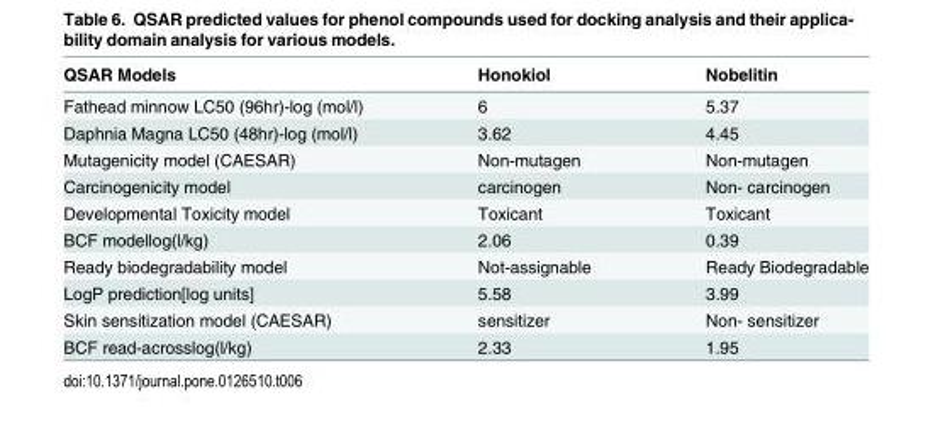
<table><thead><tr><td>QSAR Models</td><td>Honokiol</td><td>Nobelitin</td></tr></thead><tbody><tr><td>Fathead minnow LC50 (96hr)-log (mol/l)</td><td>6</td><td>5.37</td></tr><tr><td>Daphnia Magna LC50 (48hr)-log (mol/l)</td><td>3.62</td><td>4.45</td></tr><tr><td>Mutagenicity model (CAESAR)</td><td>Non-mutagen</td><td>Non-mutagen</td></tr><tr><td>Carcinogenicity model</td><td>carcinogen</td><td>Non- carcinogen</td></tr><tr><td>Developmental Toxicity model</td><td>Toxicant</td><td>Toxicant</td></tr><tr><td>BCF modellog(l/kg)</td><td>2.06</td><td>0.39</td></tr><tr><td>Ready biodegradability model</td><td>Not-assignable</td><td>Ready Biodegradable</td></tr><tr><td>LogP prediction[log units]</td><td>5.58</td><td>3.99</td></tr><tr><td>Skin sensitization model (CAESAR)</td><td>sensitizer</td><td>Non- sensitizer</td></tr><tr><td>BCF read-acrosslog(l/kg)</td><td>2.33</td><td>1.95</td></tr></tbody></table>